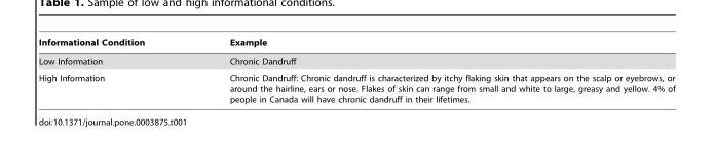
<table><thead><tr><td>Informational Condition</td><td>Example</td></tr></thead><tbody><tr><td>Low Information</td><td>Chronic Dandruff</td></tr><tr><td>High Information</td><td>Chronic Dandruff: Chronic dandruff is characterized by itchy flaking skin that appears on the scalp or eyebrows, or around the hairline, ears or nose. Flakes of skin can range from small and white to large, greasy and yellow. 4% of people in Canada will have chronic dandruff in their lifetimes.</td></tr></tbody></table>